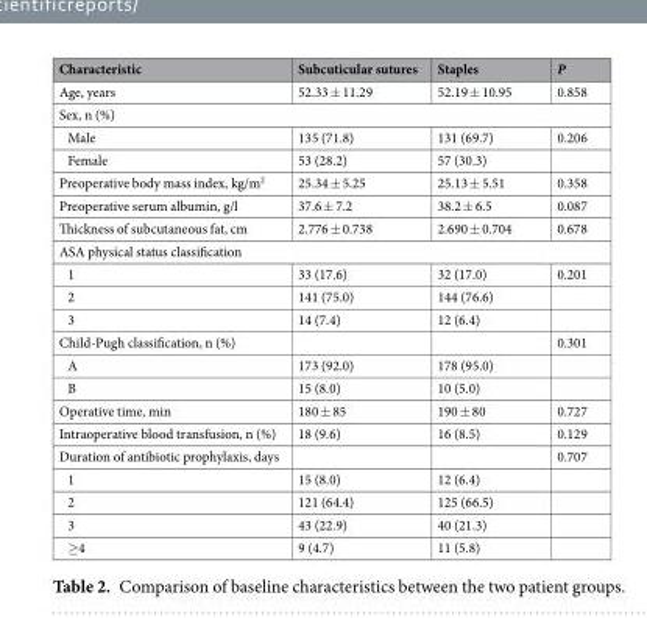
<table><thead><tr><td>Characteristic</td><td>Subcuticular sutures</td><td>Staples</td><td>P</td></tr></thead><tbody><tr><td>Age, years</td><td>52.33 ± 11.29</td><td>52.19 ± 10.95</td><td>0.858</td></tr><tr><td colspan="4">Sex, n (%)</td></tr><tr><td>Male</td><td>135 (71.8)</td><td>131 (69.7)</td><td>0.206</td></tr><tr><td>Female</td><td>53 (28.2)</td><td>57 (30.3)</td><td></td></tr><tr><td>Preoperative body mass index, kg/m<sup>2</sup></td><td>25.34 ± 5.25</td><td>25.13 ± 5.51</td><td>0.358</td></tr><tr><td>Preoperative serum albumin, g/l</td><td>37.6 ± 7.2</td><td>38.2 ± 6.5</td><td>0.087</td></tr><tr><td>Thickness of subcutaneous fat, cm</td><td>2.776 ± 0.738</td><td>2.690 ± 0.704</td><td>0.678</td></tr><tr><td colspan="4">ASA physical status classification</td></tr><tr><td>1</td><td>33 (17.6)</td><td>32 (17.0)</td><td>0.201</td></tr><tr><td>2</td><td>141 (75.0)</td><td>144 (76.6)</td><td></td></tr><tr><td>3</td><td>14 (7.4)</td><td>12 (6.4)</td><td></td></tr><tr><td>Child-Pugh classification, n (%)</td><td></td><td></td><td>0.301</td></tr><tr><td>A</td><td>173 (92.0)</td><td>178 (95.0)</td><td></td></tr><tr><td>B</td><td>15 (8.0)</td><td>10 (5.0)</td><td></td></tr><tr><td>Operative time, min</td><td>180 ± 85</td><td>190 ± 80</td><td>0.727</td></tr><tr><td>Intraoperative blood transfusion, n (%)</td><td>18 (9.6)</td><td>16 (8.5)</td><td>0.129</td></tr><tr><td>Duration of antibiotic prophylaxis, days</td><td></td><td></td><td>0.707</td></tr><tr><td>1</td><td>15 (8.0)</td><td>12 (6.4)</td><td></td></tr><tr><td>2</td><td>121 (64.4)</td><td>125 (66.5)</td><td></td></tr><tr><td>3</td><td>43 (22.9)</td><td>40 (21.3)</td><td></td></tr><tr><td>≥4</td><td>9 (4.7)</td><td>11 (5.8)</td><td></td></tr></tbody></table>